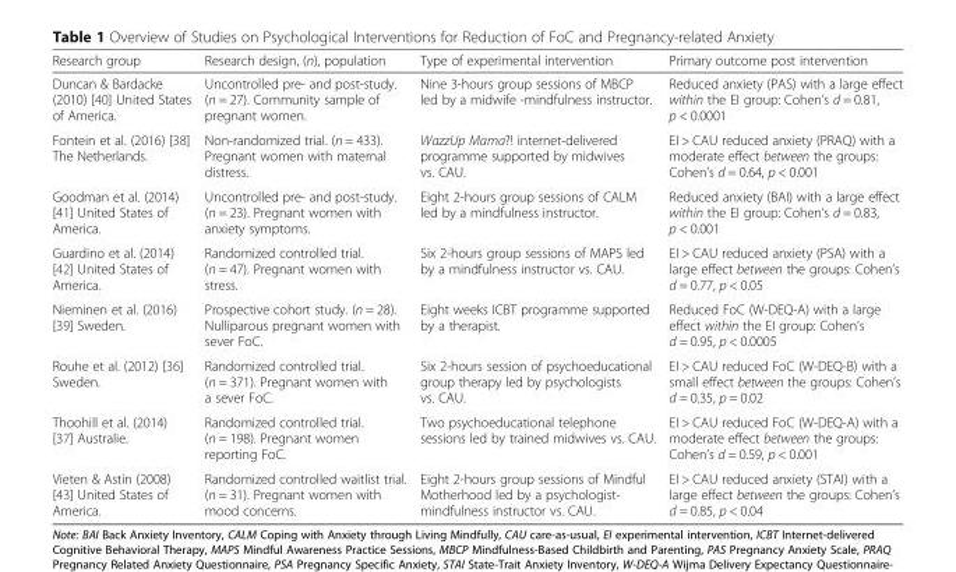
<table><thead><tr><td>Research group</td><td>Research design, (n), population</td><td>Type of experimental intervention</td><td>Primary outcome post intervention</td></tr></thead><tbody><tr><td>Duncan &amp; Bardacke (2010) [40] United States of America.</td><td>Uncontrolled pre- and post-study. (n = 27). Community sample of pregnant women.</td><td>Nine 3-hours group sessions of MBCP led by a midwife -mindfulness instructor.</td><td>Reduced anxiety (PAS) with a large effect within the EI group: Cohen’s d = 0.81, p &lt; 0.0001</td></tr><tr><td>Fontein et al. (2016) [38] The Netherlands.</td><td>Non-randomized trial. (n = 433). Pregnant women with maternal distress.</td><td>WazzUp Mama?! internet-delivered programme supported by midwives vs. CAU.</td><td>EI &gt; CAU reduced anxiety (PRAQ) with a moderate effect between the groups: Cohen’s d = 0.64, p &lt; 0.001</td></tr><tr><td>Goodman et al. (2014) [41] United States of America.</td><td>Uncontrolled pre- and post-study. (n = 23). Pregnant women with anxiety symptoms.</td><td>Eight 2-hours group sessions of CALM led by a mindfulness instructor.</td><td>Reduced anxiety (BAI) with a large effect within the EI group: Cohen’s d = 0.83, p &lt; 0.001</td></tr><tr><td>Guardino et al. (2014) [42] United States of America.</td><td>Randomized controlled trial. (n = 47). Pregnant women with stress.</td><td>Six 2-hours group sessions of MAPS led by a mindfulness instructor vs. CAU.</td><td>EI &gt; CAU reduced anxiety (PSA) with a large effect between the groups: Cohen’s d = 0.77, p &lt; 0.05</td></tr><tr><td>Nieminen et al. (2016) [39] Sweden.</td><td>Prospective cohort study. (n = 28). Nulliparous pregnant women with sever FoC.</td><td>Eight weeks ICBT programme supported by a therapist.</td><td>Reduced FoC (W-DEQ-A) with a large effect within the EI group: Cohen’s d = 0.95, p &lt; 0.0005</td></tr><tr><td>Rouhe et al. (2012) [36] Sweden.</td><td>Randomized controlled trial. (n = 371). Pregnant women with a sever FoC.</td><td>Six 2-hours session of psychoeducational group therapy led by psychologists vs. CAU.</td><td>EI &gt; CAU reduced FoC (W-DEQ-B) with a small effect between the groups: Cohen’s d = 0.35, p = 0.02</td></tr><tr><td>Thoohill et al. (2014) [37] Australie.</td><td>Randomized controlled trial. (n = 198). Pregnant women reporting FoC.</td><td>Two psychoeducational telephone sessions led by trained midwives vs. CAU.</td><td>EI &gt; CAU reduced FoC (W-DEQ-A) with a moderate effect between the groups: Cohen’s d = 0.59, p &lt; 0.001</td></tr><tr><td>Vieten &amp; Astin (2008) [43] United States of America.</td><td>Randomized controlled waitlist trial. (n = 31). Pregnant women with mood concerns.</td><td>Eight 2-hours group sessions of Mindful Motherhood led by a psychologist- mindfulness instructor vs. CAU.</td><td>EI &gt; CAU reduced anxiety (STAI) with a large effect between the groups: Cohen’s d = 0.85, p &lt; 0.04</td></tr></tbody></table>